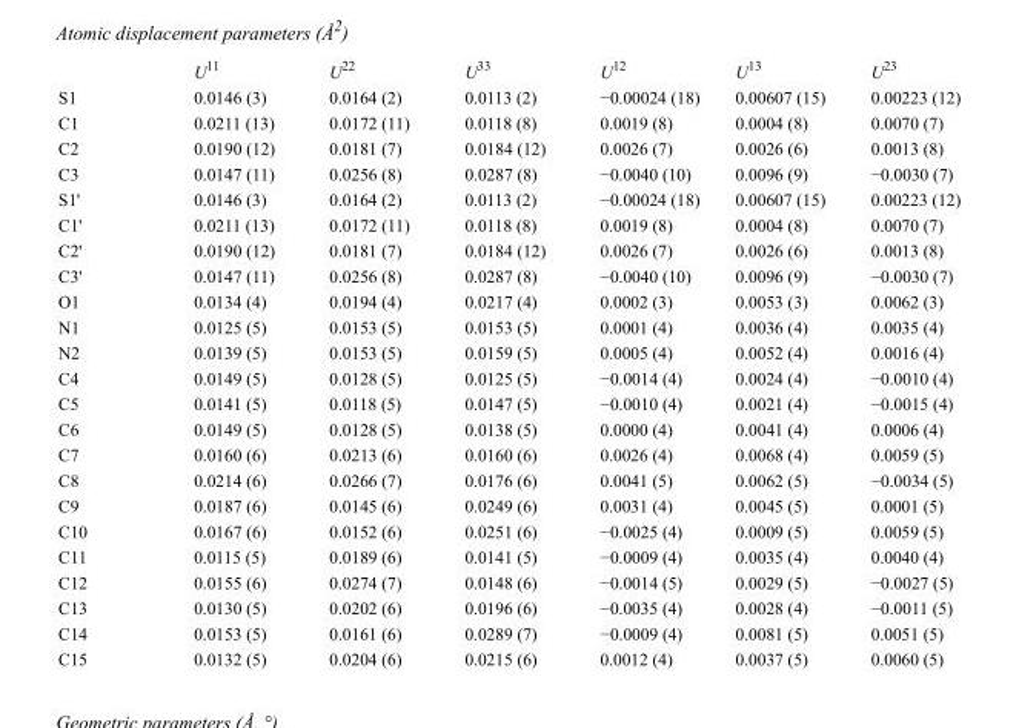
<table><thead><tr><td></td><td>U<sup>11</sup></td><td>U<sup>22</sup></td><td>U<sup>33</sup></td><td>U<sup>12</sup></td><td>U<sup>13</sup></td><td>U<sup>23</sup></td></tr></thead><tbody><tr><td>S1</td><td>0.0146 (3)</td><td>0.0164 (2)</td><td>0.0113 (2)</td><td>−0.00024 (18)</td><td>0.00607 (15)</td><td>0.00223 (12)</td></tr><tr><td>C1</td><td>0.0211 (13)</td><td>0.0172 (11)</td><td>0.0118 (8)</td><td>0.0019 (8)</td><td>0.0004 (8)</td><td>0.0070 (7)</td></tr><tr><td>C2</td><td>0.0190 (12)</td><td>0.0181 (7)</td><td>0.0184 (12)</td><td>0.0026 (7)</td><td>0.0026 (6)</td><td>0.0013 (8)</td></tr><tr><td>C3</td><td>0.0147 (11)</td><td>0.0256 (8)</td><td>0.0287 (8)</td><td>−0.0040 (10)</td><td>0.0096 (9)</td><td>−0.0030 (7)</td></tr><tr><td>S1&#x27;</td><td>0.0146 (3)</td><td>0.0164 (2)</td><td>0.0113 (2)</td><td>−0.00024 (18)</td><td>0.00607 (15)</td><td>0.00223 (12)</td></tr><tr><td>C1&#x27;</td><td>0.0211 (13)</td><td>0.0172 (11)</td><td>0.0118 (8)</td><td>0.0019 (8)</td><td>0.0004 (8)</td><td>0.0070 (7)</td></tr><tr><td>C2&#x27;</td><td>0.0190 (12)</td><td>0.0181 (7)</td><td>0.0184 (12)</td><td>0.0026 (7)</td><td>0.0026 (6)</td><td>0.0013 (8)</td></tr><tr><td>C3&#x27;</td><td>0.0147 (11)</td><td>0.0256 (8)</td><td>0.0287 (8)</td><td>−0.0040 (10)</td><td>0.0096 (9)</td><td>−0.0030 (7)</td></tr><tr><td>O1</td><td>0.0134 (4)</td><td>0.0194 (4)</td><td>0.0217 (4)</td><td>0.0002 (3)</td><td>0.0053 (3)</td><td>0.0062 (3)</td></tr><tr><td>N1</td><td>0.0125 (5)</td><td>0.0153 (5)</td><td>0.0153 (5)</td><td>0.0001 (4)</td><td>0.0036 (4)</td><td>0.0035 (4)</td></tr><tr><td>N2</td><td>0.0139 (5)</td><td>0.0153 (5)</td><td>0.0159 (5)</td><td>0.0005 (4)</td><td>0.0052 (4)</td><td>0.0016 (4)</td></tr><tr><td>C4</td><td>0.0149 (5)</td><td>0.0128 (5)</td><td>0.0125 (5)</td><td>−0.0014 (4)</td><td>0.0024 (4)</td><td>−0.0010 (4)</td></tr><tr><td>C5</td><td>0.0141 (5)</td><td>0.0118 (5)</td><td>0.0147 (5)</td><td>−0.0010 (4)</td><td>0.0021 (4)</td><td>−0.0015 (4)</td></tr><tr><td>C6</td><td>0.0149 (5)</td><td>0.0128 (5)</td><td>0.0138 (5)</td><td>0.0000 (4)</td><td>0.0041 (4)</td><td>0.0006 (4)</td></tr><tr><td>C7</td><td>0.0160 (6)</td><td>0.0213 (6)</td><td>0.0160 (6)</td><td>0.0026 (4)</td><td>0.0068 (4)</td><td>0.0059 (5)</td></tr><tr><td>C8</td><td>0.0214 (6)</td><td>0.0266 (7)</td><td>0.0176 (6)</td><td>0.0041 (5)</td><td>0.0062 (5)</td><td>−0.0034 (5)</td></tr><tr><td>C9</td><td>0.0187 (6)</td><td>0.0145 (6)</td><td>0.0249 (6)</td><td>0.0031 (4)</td><td>0.0045 (5)</td><td>0.0001 (5)</td></tr><tr><td>C10</td><td>0.0167 (6)</td><td>0.0152 (6)</td><td>0.0251 (6)</td><td>−0.0025 (4)</td><td>0.0009 (5)</td><td>0.0059 (5)</td></tr><tr><td>C11</td><td>0.0115 (5)</td><td>0.0189 (6)</td><td>0.0141 (5)</td><td>−0.0009 (4)</td><td>0.0035 (4)</td><td>0.0040 (4)</td></tr><tr><td>C12</td><td>0.0155 (6)</td><td>0.0274 (7)</td><td>0.0148 (6)</td><td>−0.0014 (5)</td><td>0.0029 (5)</td><td>−0.0027 (5)</td></tr><tr><td>C13</td><td>0.0130 (5)</td><td>0.0202 (6)</td><td>0.0196 (6)</td><td>−0.0035 (4)</td><td>0.0028 (4)</td><td>−0.0011 (5)</td></tr><tr><td>C14</td><td>0.0153 (5)</td><td>0.0161 (6)</td><td>0.0289 (7)</td><td>−0.0009 (4)</td><td>0.0081 (5)</td><td>0.0051 (5)</td></tr><tr><td>C15</td><td>0.0132 (5)</td><td>0.0204 (6)</td><td>0.0215 (6)</td><td>0.0012 (4)</td><td>0.0037 (5)</td><td>0.0060 (5)</td></tr></tbody></table>